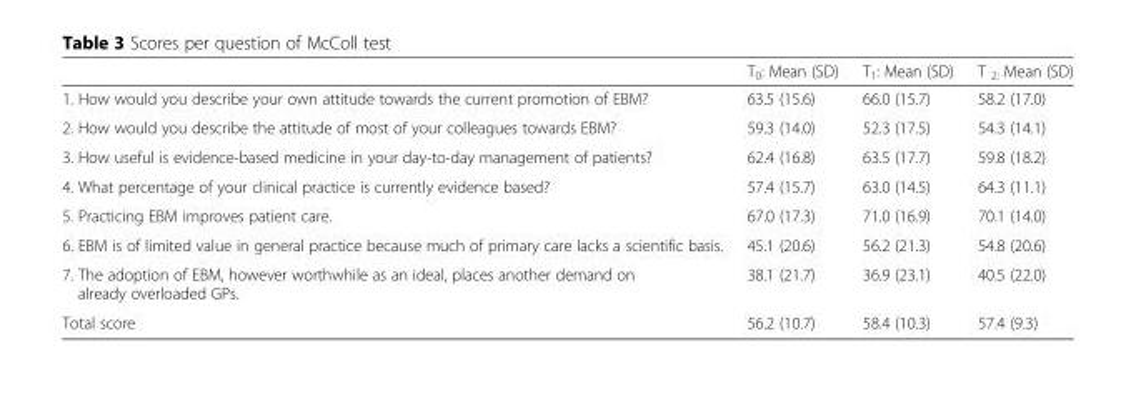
<table><thead><tr><td></td><td>T<sub>0</sub>: Mean (SD)</td><td>T<sub>1</sub>: Mean (SD)</td><td>T <sub>2:</sub> Mean (SD)</td></tr></thead><tbody><tr><td>1. How would you describe your own attitude towards the current promotion of EBM?</td><td>63.5 (15.6)</td><td>66.0 (15.7)</td><td>58.2 (17.0)</td></tr><tr><td>2. How would you describe the attitude of most of your colleagues towards EBM?</td><td>59.3 (14.0)</td><td>52.3 (17.5)</td><td>54.3 (14.1)</td></tr><tr><td>3. How useful is evidence-based medicine in your day-to-day management of patients?</td><td>62.4 (16.8)</td><td>63.5 (17.7)</td><td>59.8 (18.2)</td></tr><tr><td>4. What percentage of your clinical practice is currently evidence based?</td><td>57.4 (15.7)</td><td>63.0 (14.5)</td><td>64.3 (11.1)</td></tr><tr><td>5. Practicing EBM improves patient care.</td><td>67.0 (17.3)</td><td>71.0 (16.9)</td><td>70.1 (14.0)</td></tr><tr><td>6. EBM is of limited value in general practice because much of primary care lacks a scientific basis.</td><td>45.1 (20.6)</td><td>56.2 (21.3)</td><td>54.8 (20.6)</td></tr><tr><td>7. The adoption of EBM, however worthwhile as an ideal, places another demand on already overloaded GPs.</td><td>38.1 (21.7)</td><td>36.9 (23.1)</td><td>40.5 (22.0)</td></tr><tr><td>Total score</td><td>56.2 (10.7)</td><td>58.4 (10.3)</td><td>57.4 (9.3)</td></tr></tbody></table>